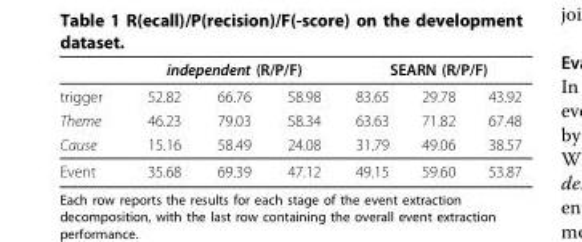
<table><thead><tr><td rowspan="2">trigger</td><td colspan="3">independent (R/P/F)</td><td colspan="3">SEARN (R/P/F)</td></tr><tr><td>52.82</td><td>66.76</td><td>58.98</td><td>83.65</td><td>29.78</td><td>43.92</td></tr></thead><tbody><tr><td>Theme</td><td>46.23</td><td>79.03</td><td>58.34</td><td>63.63</td><td>71.82</td><td>67.48</td></tr><tr><td>Cause</td><td>15.16</td><td>58.49</td><td>24.08</td><td>31.79</td><td>49.06</td><td>38.57</td></tr><tr><td>Event</td><td>35.68</td><td>69.39</td><td>47.12</td><td>49.15</td><td>59.60</td><td>53.87</td></tr></tbody></table>